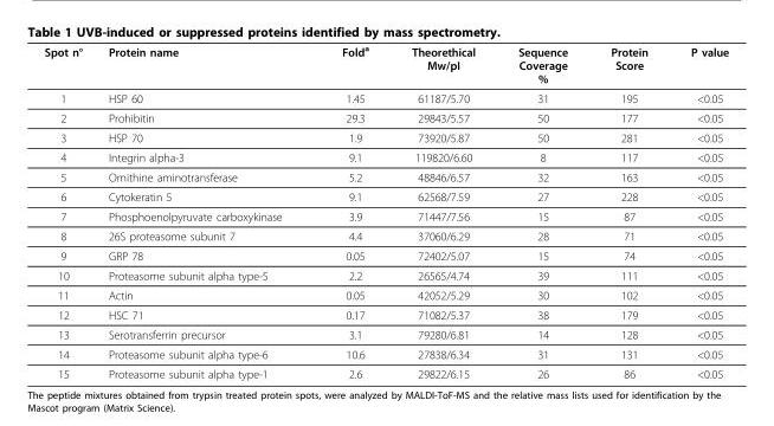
<table><thead><tr><td>Spot n°</td><td>Protein name</td><td>Fold<sup>a</sup></td><td>Theorethical Mw/pI</td><td>Sequence Coverage %</td><td>Protein Score</td><td>P value</td></tr></thead><tbody><tr><td>1</td><td>HSP 60</td><td>1.45</td><td>61187/5.70</td><td>31</td><td>195</td><td>&lt;0.05</td></tr><tr><td>2</td><td>Prohibitin</td><td>29.3</td><td>29843/5.57</td><td>50</td><td>177</td><td>&lt;0.05</td></tr><tr><td>3</td><td>HSP 70</td><td>1.9</td><td>73920/5.87</td><td>50</td><td>281</td><td>&lt;0.05</td></tr><tr><td>4</td><td>Integrin alpha-3</td><td>9.1</td><td>119820/6.60</td><td>8</td><td>117</td><td>&lt;0.05</td></tr><tr><td>5</td><td>Ornithine aminotransferase</td><td>5.2</td><td>48846/6.57</td><td>32</td><td>163</td><td>&lt;0.05</td></tr><tr><td>6</td><td>Cytokeratin 5</td><td>9.1</td><td>62568/7.59</td><td>27</td><td>228</td><td>&lt;0.05</td></tr><tr><td>7</td><td>Phosphoenolpyruvate carboxykinase</td><td>3.9</td><td>71447/7.56</td><td>15</td><td>87</td><td>&lt;0.05</td></tr><tr><td>8</td><td>26S proteasome subunit 7</td><td>4.4</td><td>37060/6.29</td><td>28</td><td>71</td><td>&lt;0.05</td></tr><tr><td>9</td><td>GRP 78</td><td>0.05</td><td>72402/5.07</td><td>15</td><td>74</td><td>&lt;0.05</td></tr><tr><td>10</td><td>Proteasome subunit alpha type-5</td><td>2.2</td><td>26565/4.74</td><td>39</td><td>111</td><td>&lt;0.05</td></tr><tr><td>11</td><td>Actin</td><td>0.05</td><td>42052/5.29</td><td>30</td><td>102</td><td>&lt;0.05</td></tr><tr><td>12</td><td>HSC 71</td><td>0.17</td><td>71082/5.37</td><td>38</td><td>179</td><td>&lt;0.05</td></tr><tr><td>13</td><td>Serotransferrin precursor</td><td>3.1</td><td>79280/6.81</td><td>14</td><td>128</td><td>&lt;0.05</td></tr><tr><td>14</td><td>Proteasome subunit alpha type-6</td><td>10.6</td><td>27838/6.34</td><td>31</td><td>131</td><td>&lt;0.05</td></tr><tr><td>15</td><td>Proteasome subunit alpha type-1</td><td>2.6</td><td>29822/6.15</td><td>26</td><td>86</td><td>&lt;0.05</td></tr></tbody></table>